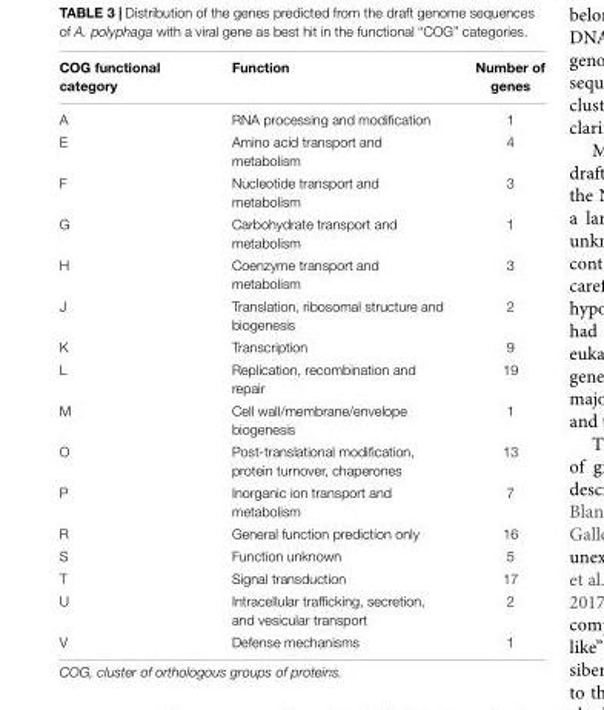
<table><thead><tr><td>COG functional category</td><td>Function</td><td>Number of genes</td></tr></thead><tbody><tr><td>A</td><td>RNA processing and modification</td><td>1</td></tr><tr><td>E</td><td>Amino acid transport and metabolism</td><td>4</td></tr><tr><td>F</td><td>Nucleotide transport and metabolism</td><td>3</td></tr><tr><td>G</td><td>Carbohydrate transport and metabolism</td><td>1</td></tr><tr><td>H</td><td>Coenzyme transport and metabolism</td><td>3</td></tr><tr><td>J</td><td>Translation, ribosomal structure and biogenesis</td><td>2</td></tr><tr><td>K</td><td>Transcription</td><td>9</td></tr><tr><td>L</td><td>Replication, recombination and repair</td><td>19</td></tr><tr><td>M</td><td>Cell wall/membrane/envelope biogenesis</td><td>1</td></tr><tr><td>O</td><td>Post-translational modification, protein turnover, chaperones</td><td>13</td></tr><tr><td>P</td><td>Inorganic ion transport and metabolism</td><td>7</td></tr><tr><td>R</td><td>General function prediction only</td><td>16</td></tr><tr><td>S</td><td>Function unknown</td><td>5</td></tr><tr><td>T</td><td>Signal transduction</td><td>17</td></tr><tr><td>U</td><td>Intracellular trafficking, secretion, and vesicular transport</td><td>2</td></tr><tr><td>V</td><td>Defense mechanisms</td><td>1</td></tr></tbody></table>